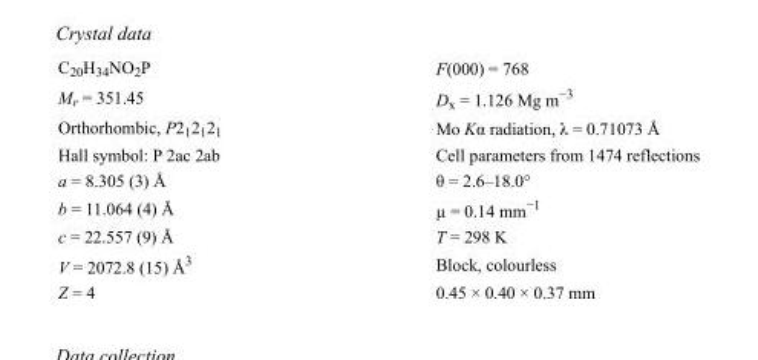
<table><tbody><tr><td>C<sub>20</sub>H<sub>34</sub>NO<sub>2</sub>P</td><td>F(000) = 768</td></tr><tr><td>M<sub>r</sub> = 351.45</td><td>D<sub>x</sub> = 1.126 Mg m<sup>−3</sup></td></tr><tr><td>Orthorhombic, P2<sub>1</sub>2<sub>1</sub>2<sub>1</sub></td><td>Mo Kα radiation, λ = 0.71073 Å</td></tr><tr><td>Hall symbol: P 2ac 2ab</td><td>Cell parameters from 1474 reflections</td></tr><tr><td>a = 8.305 (3) Å</td><td>θ = 2.6–18.0°</td></tr><tr><td>b = 11.064 (4) Å</td><td>µ = 0.14 mm<sup>−1</sup></td></tr><tr><td>c = 22.557 (9) Å</td><td>T = 298 K</td></tr><tr><td>V = 2072.8 (15) Å<sup>3</sup></td><td>Block, colourless</td></tr><tr><td>Z = 4</td><td>0.45 × 0.40 × 0.37 mm</td></tr></tbody></table>